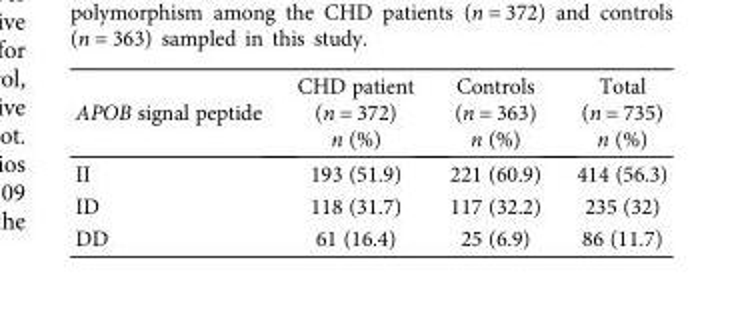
<table><thead><tr><td>APOB signal peptide</td><td>CHD patient (n = 372) n (%)</td><td>Controls (n = 363) n (%)</td><td>Total (n = 735) n (%)</td></tr></thead><tbody><tr><td>II</td><td>193 (51.9)</td><td>221 (60.9)</td><td>414 (56.3)</td></tr><tr><td>ID</td><td>118 (31.7)</td><td>117 (32.2)</td><td>235 (32)</td></tr><tr><td>DD</td><td>61 (16.4)</td><td>25 (6.9)</td><td>86 (11.7)</td></tr></tbody></table>